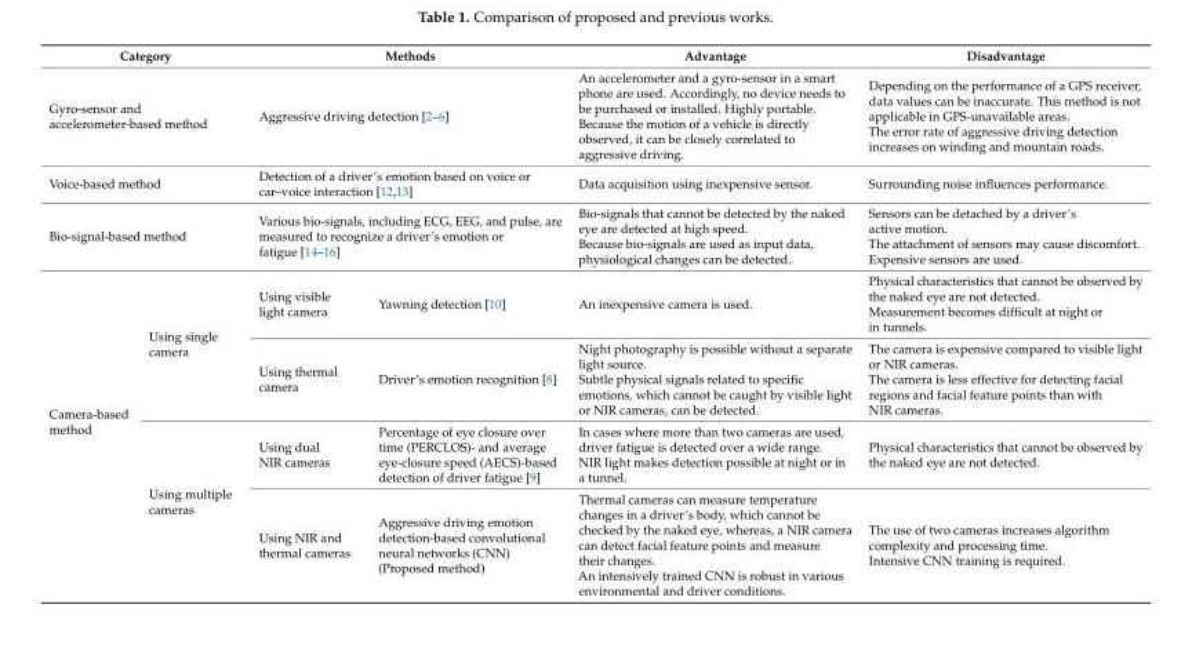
<table><thead><tr><td colspan="2">Category</td><td colspan="2">Methods</td><td>Advantage</td><td>Disadvantage</td></tr></thead><tbody><tr><td colspan="2">Gyro-sensor and accelerometer-based method</td><td colspan="2">Aggressive driving detection [2–6]</td><td>An accelerometer and a gyro-sensor in a smart phone are used. Accordingly, no device needs to be purchased or installed. Highly portable. Because the motion of a vehicle is directly observed, it can be closely correlated to aggressive driving.</td><td>Depending on the performance of a GPS receiver, data values can be inaccurate. This method is not applicable in GPS-unavailable areas. The error rate of aggressive driving detection increases on winding and mountain roads.</td></tr><tr><td colspan="2">Voice-based method</td><td colspan="2">Detection of a driver’s emotion based on voice or car–voice interaction [12,13]</td><td>Data acquisition using inexpensive sensor.</td><td>Surrounding noise influences performance.</td></tr><tr><td colspan="2">Bio-signal-based method</td><td colspan="2">Various bio-signals, including ECG, EEG, and pulse, are measured to recognize a driver’s emotion or fatigue [14–16]</td><td>Bio-signals that cannot be detected by the naked eye are detected at high speed. Because bio-signals are used as input data, physiological changes can be detected.</td><td>Sensors can be detached by a driver’s active motion. The attachment of sensors may cause discomfort. Expensive sensors are used.</td></tr><tr><td rowspan="4">Camera-based method</td><td rowspan="2">Using single camera</td><td>Using visible light camera</td><td>Yawning detection [10]</td><td>An inexpensive camera is used.</td><td>Physical characteristics that cannot be observed by the naked eye are not detected. Measurement becomes difficult at night or in tunnels.</td></tr><tr><td>Using thermal camera</td><td>Driver’s emotion recognition [8]</td><td>Night photography is possible without a separate light source. Subtle physical signals related to specific emotions, which cannot be caught by visible light or NIR cameras, can be detected.</td><td>The camera is expensive compared to visible light or NIR cameras. The camera is less effective for detecting facial regions and facial feature points than with NIR cameras.</td></tr><tr><td rowspan="2">Using multiple cameras</td><td>Using dual NIR cameras</td><td>Percentage of eye closure over time (PERCLOS)- and average eye-closure speed (AECS)-based detection of driver fatigue [9]</td><td>In cases where more than two cameras are used, driver fatigue is detected over a wide range. NIR light makes detection possible at night or in a tunnel.</td><td>Physical characteristics that cannot be observed by the naked eye are not detected.</td></tr><tr><td>Using NIR and thermal cameras</td><td>Aggressive driving emotion detection-based convolutional neural networks (CNN) (Proposed method)</td><td>Thermal cameras can measure temperature changes in a driver’s body, which cannot be checked by the naked eye, whereas, a NIR camera can detect facial feature points and measure their changes. An intensively trained CNN is robust in various environmental and driver conditions.</td><td>The use of two cameras increases algorithm complexity and processing time. Intensive CNN training is required.</td></tr></tbody></table>